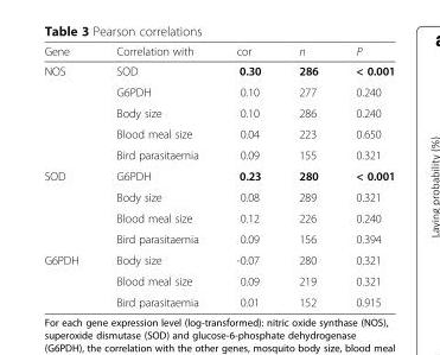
<table><thead><tr><td>Gene</td><td>Correlation with</td><td>cor</td><td>n</td><td>P</td></tr></thead><tbody><tr><td rowspan="5">NOS</td><td>SOD</td><td>0.30</td><td>286</td><td>&lt; 0.001</td></tr><tr><td>G6PDH</td><td>0.10</td><td>277</td><td>0.240</td></tr><tr><td>Body size</td><td>0.10</td><td>286</td><td>0.240</td></tr><tr><td>Blood meal size</td><td>0.04</td><td>223</td><td>0.650</td></tr><tr><td>Bird parasitaemia</td><td>0.09</td><td>155</td><td>0.321</td></tr><tr><td rowspan="4">SOD</td><td>G6PDH</td><td>0.23</td><td>280</td><td>&lt; 0.001</td></tr><tr><td>Body size</td><td>0.08</td><td>289</td><td>0.321</td></tr><tr><td>Blood meal size</td><td>0.12</td><td>226</td><td>0.240</td></tr><tr><td>Bird parasitaemia</td><td>0.09</td><td>156</td><td>0.394</td></tr><tr><td rowspan="3">G6PDH</td><td>Body size</td><td>-0.07</td><td>280</td><td>0.321</td></tr><tr><td>Blood meal size</td><td>0.09</td><td>219</td><td>0.321</td></tr><tr><td>Bird parasitaemia</td><td>0.01</td><td>152</td><td>0.915</td></tr></tbody></table>